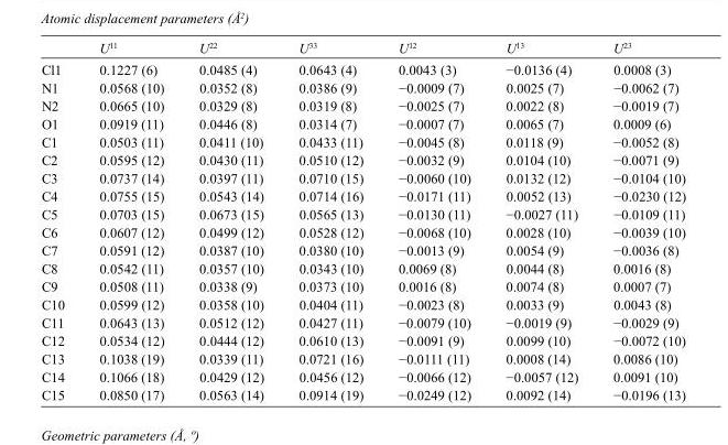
<table><thead><tr><td></td><td>U<sup>11</sup></td><td>U<sup>22</sup></td><td>U<sup>33</sup></td><td>U<sup>12</sup></td><td>U<sup>13</sup></td><td>U<sup>23</sup></td></tr></thead><tbody><tr><td>Cl1</td><td>0.1227 (6)</td><td>0.0485 (4)</td><td>0.0643 (4)</td><td>0.0043 (3)</td><td>−0.0136 (4)</td><td>0.0008 (3)</td></tr><tr><td>N1</td><td>0.0568 (10)</td><td>0.0352 (8)</td><td>0.0386 (9)</td><td>−0.0009 (7)</td><td>0.0025 (7)</td><td>−0.0062 (7)</td></tr><tr><td>N2</td><td>0.0665 (10)</td><td>0.0329 (8)</td><td>0.0319 (8)</td><td>−0.0025 (7)</td><td>0.0022 (8)</td><td>−0.0019 (7)</td></tr><tr><td>O1</td><td>0.0919 (11)</td><td>0.0446 (8)</td><td>0.0314 (7)</td><td>−0.0007 (7)</td><td>0.0065 (7)</td><td>0.0009 (6)</td></tr><tr><td>C1</td><td>0.0503 (11)</td><td>0.0411 (10)</td><td>0.0433 (11)</td><td>−0.0045 (8)</td><td>0.0118 (9)</td><td>−0.0052 (8)</td></tr><tr><td>C2</td><td>0.0595 (12)</td><td>0.0430 (11)</td><td>0.0510 (12)</td><td>−0.0032 (9)</td><td>0.0104 (10)</td><td>−0.0071 (9)</td></tr><tr><td>C3</td><td>0.0737 (14)</td><td>0.0397 (11)</td><td>0.0710 (15)</td><td>−0.0060 (10)</td><td>0.0132 (12)</td><td>−0.0104 (10)</td></tr><tr><td>C4</td><td>0.0755 (15)</td><td>0.0543 (14)</td><td>0.0714 (16)</td><td>−0.0171 (11)</td><td>0.0052 (13)</td><td>−0.0230 (12)</td></tr><tr><td>C5</td><td>0.0703 (15)</td><td>0.0673 (15)</td><td>0.0565 (13)</td><td>−0.0130 (11)</td><td>−0.0027 (11)</td><td>−0.0109 (11)</td></tr><tr><td>C6</td><td>0.0607 (12)</td><td>0.0499 (12)</td><td>0.0528 (12)</td><td>−0.0068 (10)</td><td>0.0028 (10)</td><td>−0.0039 (10)</td></tr><tr><td>C7</td><td>0.0591 (12)</td><td>0.0387 (10)</td><td>0.0380 (10)</td><td>−0.0013 (9)</td><td>0.0054 (9)</td><td>−0.0036 (8)</td></tr><tr><td>C8</td><td>0.0542 (11)</td><td>0.0357 (10)</td><td>0.0343 (10)</td><td>0.0069 (8)</td><td>0.0044 (8)</td><td>0.0016 (8)</td></tr><tr><td>C9</td><td>0.0508 (11)</td><td>0.0338 (9)</td><td>0.0373 (10)</td><td>0.0016 (8)</td><td>0.0074 (8)</td><td>0.0007 (7)</td></tr><tr><td>C10</td><td>0.0599 (12)</td><td>0.0358 (10)</td><td>0.0404 (11)</td><td>−0.0023 (8)</td><td>0.0033 (9)</td><td>0.0043 (8)</td></tr><tr><td>C11</td><td>0.0643 (13)</td><td>0.0512 (12)</td><td>0.0427 (11)</td><td>−0.0079 (10)</td><td>−0.0019 (9)</td><td>−0.0029 (9)</td></tr><tr><td>C12</td><td>0.0534 (12)</td><td>0.0444 (12)</td><td>0.0610 (13)</td><td>−0.0091 (9)</td><td>0.0099 (10)</td><td>−0.0072 (10)</td></tr><tr><td>C13</td><td>0.1038 (19)</td><td>0.0339 (11)</td><td>0.0721 (16)</td><td>−0.0111 (11)</td><td>0.0008 (14)</td><td>0.0086 (10)</td></tr><tr><td>C14</td><td>0.1066 (18)</td><td>0.0429 (12)</td><td>0.0456 (12)</td><td>−0.0066 (12)</td><td>−0.0057 (12)</td><td>0.0091 (10)</td></tr><tr><td>C15</td><td>0.0850 (17)</td><td>0.0563 (14)</td><td>0.0914 (19)</td><td>−0.0249 (12)</td><td>0.0092 (14)</td><td>−0.0196 (13)</td></tr></tbody></table>